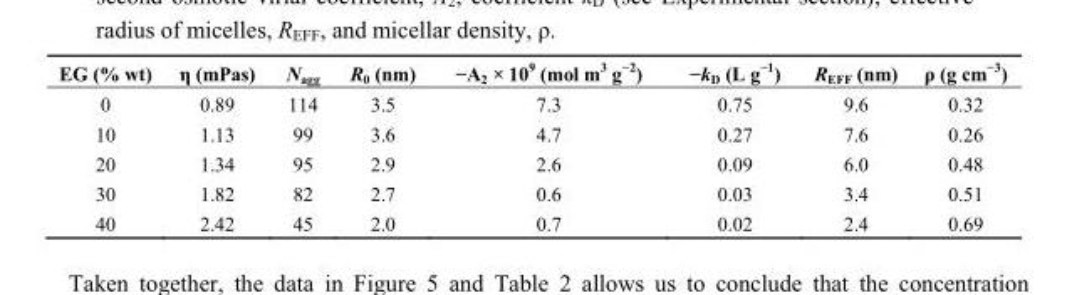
<table><thead><tr><td>EG (% wt)</td><td>η (mPas)</td><td>N<sub>agg</sub></td><td>R<sub>0</sub> (nm)</td><td>−A<sub>2</sub> × 10<sup>9</sup> (mol m<sup>3</sup> g<sup>−2</sup>)</td><td>−k<sub>D</sub> (L g<sup>−1</sup>)</td><td>R<sub>EFF</sub> (nm)</td><td>ρ (g cm<sup>−3</sup>)</td></tr></thead><tbody><tr><td>0</td><td>0.89</td><td>114</td><td>3.5</td><td>7.3</td><td>0.75</td><td>9.6</td><td>0.32</td></tr><tr><td>10</td><td>1.13</td><td>99</td><td>3.6</td><td>4.7</td><td>0.27</td><td>7.6</td><td>0.26</td></tr><tr><td>20</td><td>1.34</td><td>95</td><td>2.9</td><td>2.6</td><td>0.09</td><td>6.0</td><td>0.48</td></tr><tr><td>30</td><td>1.82</td><td>82</td><td>2.7</td><td>0.6</td><td>0.03</td><td>3.4</td><td>0.51</td></tr><tr><td>40</td><td>2.42</td><td>45</td><td>2.0</td><td>0.7</td><td>0.02</td><td>2.4</td><td>0.69</td></tr></tbody></table>